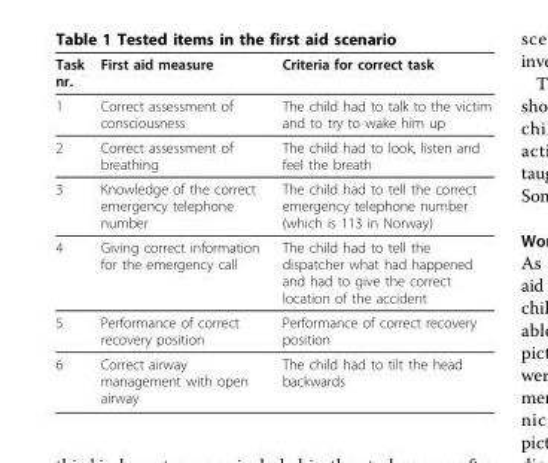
<table><thead><tr><td>Task nr.</td><td>First aid measure</td><td>Criteria for correct task</td></tr></thead><tbody><tr><td>1</td><td>Correct assessment of consciousness</td><td>The child had to talk to the victim and to try to wake him up</td></tr><tr><td>2</td><td>Correct assessment of breathing</td><td>The child had to look, listen and feel the breath</td></tr><tr><td>3</td><td>Knowledge of the correct emergency telephone number</td><td>The child had to tell the correct emergency telephone number (which is 113 in Norway)</td></tr><tr><td>4</td><td>Giving correct information for the emergency call</td><td>The child had to tell the dispatcher what had happened and had to give the correct location of the accident</td></tr><tr><td>5</td><td>Performance of correct recovery position</td><td>Performance of correct recovery position</td></tr><tr><td>6</td><td>Correct airway management with open airway</td><td>The child had to tilt the head backwards</td></tr></tbody></table>